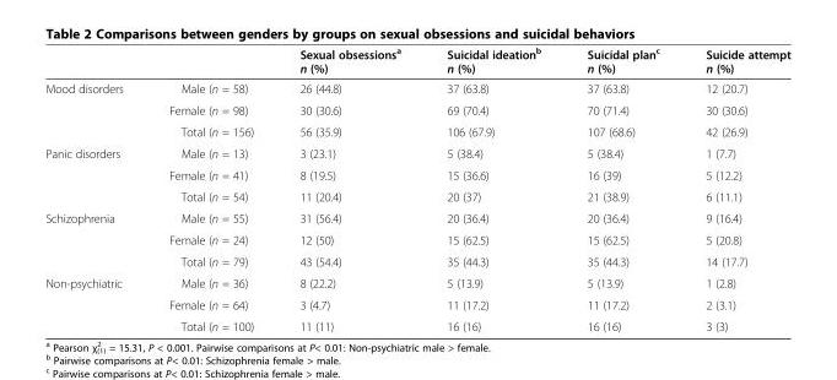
<table><thead><tr><td></td><td></td><td>Sexual obsessions<sup>a</sup> n (%)</td><td>Suicidal ideation<sup>b</sup> n (%)</td><td>Suicidal plan<sup>c</sup> n (%)</td><td>Suicide attempt n (%)</td></tr></thead><tbody><tr><td rowspan="3">Mood disorders</td><td>Male (n = 58)</td><td>26 (44.8)</td><td>37 (63.8)</td><td>37 (63.8)</td><td>12 (20.7)</td></tr><tr><td>Female (n = 98)</td><td>30 (30.6)</td><td>69 (70.4)</td><td>70 (71.4)</td><td>30 (30.6)</td></tr><tr><td>Total (n = 156)</td><td>56 (35.9)</td><td>106 (67.9)</td><td>107 (68.6)</td><td>42 (26.9)</td></tr><tr><td rowspan="3">Panic disorders</td><td>Male (n = 13)</td><td>3 (23.1)</td><td>5 (38.4)</td><td>5 (38.4)</td><td>1 (7.7)</td></tr><tr><td>Female (n = 41)</td><td>8 (19.5)</td><td>15 (36.6)</td><td>16 (39)</td><td>5 (12.2)</td></tr><tr><td>Total (n = 54)</td><td>11 (20.4)</td><td>20 (37)</td><td>21 (38.9)</td><td>6 (11.1)</td></tr><tr><td rowspan="3">Schizophrenia</td><td>Male (n = 55)</td><td>31 (56.4)</td><td>20 (36.4)</td><td>20 (36.4)</td><td>9 (16.4)</td></tr><tr><td>Female (n = 24)</td><td>12 (50)</td><td>15 (62.5)</td><td>15 (62.5)</td><td>5 (20.8)</td></tr><tr><td>Total (n = 79)</td><td>43 (54.4)</td><td>35 (44.3)</td><td>35 (44.3)</td><td>14 (17.7)</td></tr><tr><td rowspan="3">Non-psychiatric</td><td>Male (n = 36)</td><td>8 (22.2)</td><td>5 (13.9)</td><td>5 (13.9)</td><td>1 (2.8)</td></tr><tr><td>Female (n = 64)</td><td>3 (4.7)</td><td>11 (17.2)</td><td>11 (17.2)</td><td>2 (3.1)</td></tr><tr><td>Total (n = 100)</td><td>11 (11)</td><td>16 (16)</td><td>16 (16)</td><td>3 (3)</td></tr></tbody></table>